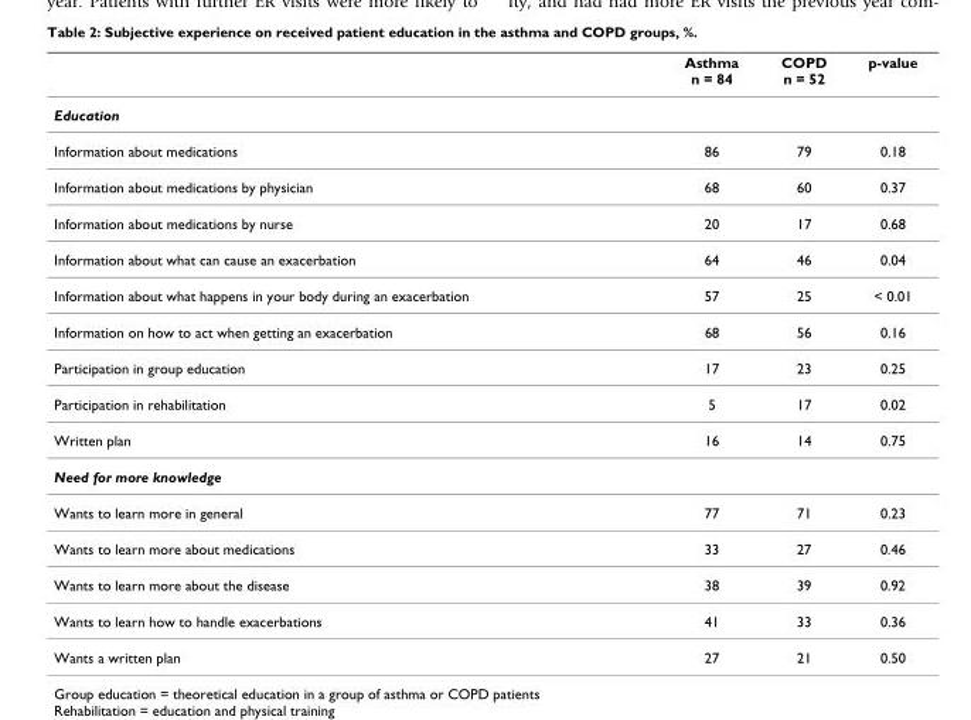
<table><thead><tr><td></td><td>Asthma n = 84</td><td>COPD n = 52</td><td>p-value</td></tr></thead><tbody><tr><td colspan="4">Education</td></tr><tr><td>Information about medications</td><td>86</td><td>79</td><td>0.18</td></tr><tr><td>Information about medications by physician</td><td>68</td><td>60</td><td>0.37</td></tr><tr><td>Information about medications by nurse</td><td>20</td><td>17</td><td>0.68</td></tr><tr><td>Information about what can cause an exacerbation</td><td>64</td><td>46</td><td>0.04</td></tr><tr><td>Information about what happens in your body during an exacerbation</td><td>57</td><td>25</td><td>&lt; 0.01</td></tr><tr><td>Information on how to act when getting an exacerbation</td><td>68</td><td>56</td><td>0.16</td></tr><tr><td>Participation in group education</td><td>17</td><td>23</td><td>0.25</td></tr><tr><td>Participation in rehabilitation</td><td>5</td><td>17</td><td>0.02</td></tr><tr><td>Written plan</td><td>16</td><td>14</td><td>0.75</td></tr><tr><td colspan="4">Need for more knowledge</td></tr><tr><td>Wants to learn more in general</td><td>77</td><td>71</td><td>0.23</td></tr><tr><td>Wants to learn more about medications</td><td>33</td><td>27</td><td>0.46</td></tr><tr><td>Wants to learn more about the disease</td><td>38</td><td>39</td><td>0.92</td></tr><tr><td>Wants to learn how to handle exacerbations</td><td>41</td><td>33</td><td>0.36</td></tr><tr><td>Wants a written plan</td><td>27</td><td>21</td><td>0.50</td></tr></tbody></table>